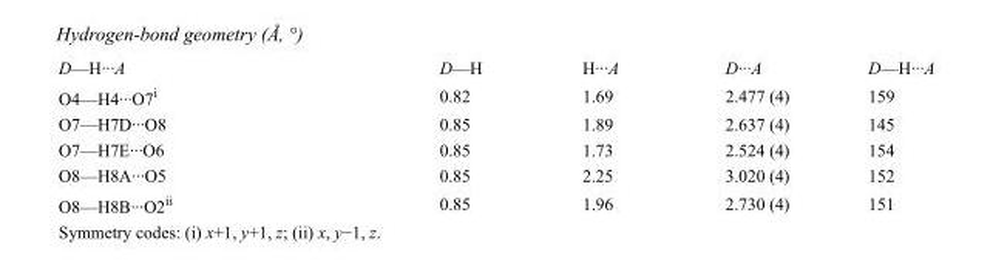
<table><tbody><tr><td>D—H···A</td><td>D—H</td><td>H···A</td><td>D···A</td><td>D—H···A</td></tr><tr><td>O4—H4···O7<sup>i</sup></td><td>0.82</td><td>1.69</td><td>2.477 (4)</td><td>159</td></tr><tr><td>O7—H7D···O8</td><td>0.85</td><td>1.89</td><td>2.637 (4)</td><td>145</td></tr><tr><td>O7—H7E···O6</td><td>0.85</td><td>1.73</td><td>2.524 (4)</td><td>154</td></tr><tr><td>O8—H8A···O5</td><td>0.85</td><td>2.25</td><td>3.020 (4)</td><td>152</td></tr><tr><td>O8—H8B···O2<sup>ii</sup></td><td>0.85</td><td>1.96</td><td>2.730 (4)</td><td>151</td></tr></tbody></table>